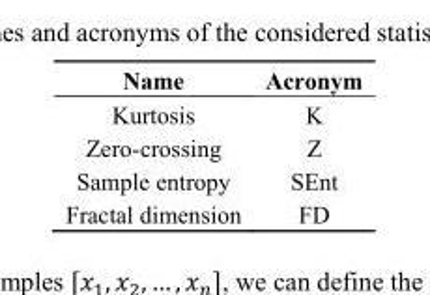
<table><thead><tr><td>Name</td><td>Acronym</td></tr></thead><tbody><tr><td>Kurtosis</td><td>K</td></tr><tr><td>Zero-crossing</td><td>Z</td></tr><tr><td>Sample entropy</td><td>SEnt</td></tr><tr><td>Fractal dimension</td><td>FD</td></tr></tbody></table>